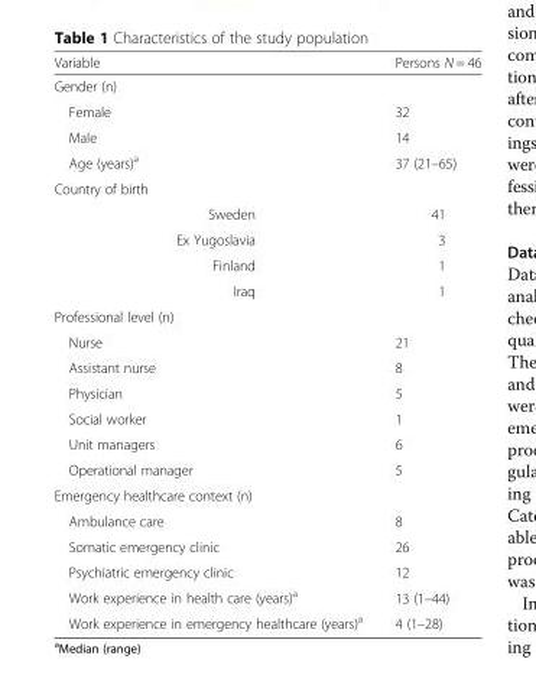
<table><thead><tr><td>Variable</td><td>Persons N = 46</td></tr></thead><tbody><tr><td colspan="2">Gender (n)</td></tr><tr><td>Female</td><td>32</td></tr><tr><td>Male</td><td>14</td></tr><tr><td>Age (years)<sup>a</sup></td><td>37 (21–65)</td></tr><tr><td colspan="2">Country of birth</td></tr><tr><td>Sweden</td><td>41</td></tr><tr><td>Ex Yugoslavia</td><td>3</td></tr><tr><td>Finland</td><td>1</td></tr><tr><td>Iraq</td><td>1</td></tr><tr><td colspan="2">Professional level (n)</td></tr><tr><td>Nurse</td><td>21</td></tr><tr><td>Assistant nurse</td><td>8</td></tr><tr><td>Physician</td><td>5</td></tr><tr><td>Social worker</td><td>1</td></tr><tr><td>Unit managers</td><td>6</td></tr><tr><td>Operational manager</td><td>5</td></tr><tr><td colspan="2">Emergency healthcare context (n)</td></tr><tr><td>Ambulance care</td><td>8</td></tr><tr><td>Somatic emergency clinic</td><td>26</td></tr><tr><td>Psychiatric emergency clinic</td><td>12</td></tr><tr><td>Work experience in health care (years)<sup>a</sup></td><td>13 (1–44)</td></tr><tr><td>Work experience in emergency healthcare (years)<sup>a</sup></td><td>4 (1–28)</td></tr></tbody></table>